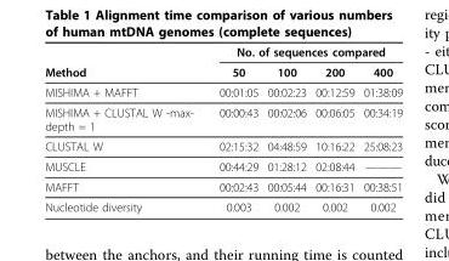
<table><thead><tr><td rowspan="2">Method</td><td colspan="4">No. of sequences compared</td></tr><tr><td>50</td><td>100</td><td>200</td><td>400</td></tr></thead><tbody><tr><td>MISHIMA + MAFFT</td><td>00:01:05</td><td>00:02:23</td><td>00:12:59</td><td>01:38:09</td></tr><tr><td>MISHIMA + CLUSTAL W -max- depth = 1</td><td>00:00:43</td><td>00:02:06</td><td>00:06:05</td><td>00:34:19</td></tr><tr><td>CLUSTAL W</td><td>02:15:32</td><td>04:48:59</td><td>10:16:22</td><td>25:08:23</td></tr><tr><td>MUSCLE</td><td>00:44:29</td><td>01:28:12</td><td>02:08:44</td><td>———</td></tr><tr><td>MAFFT</td><td>00:02:43</td><td>00:05:44</td><td>00:16:31</td><td>00:38:51</td></tr><tr><td>Nucleotide diversity</td><td>0.003</td><td>0.002</td><td>0.002</td><td>0.002</td></tr></tbody></table>